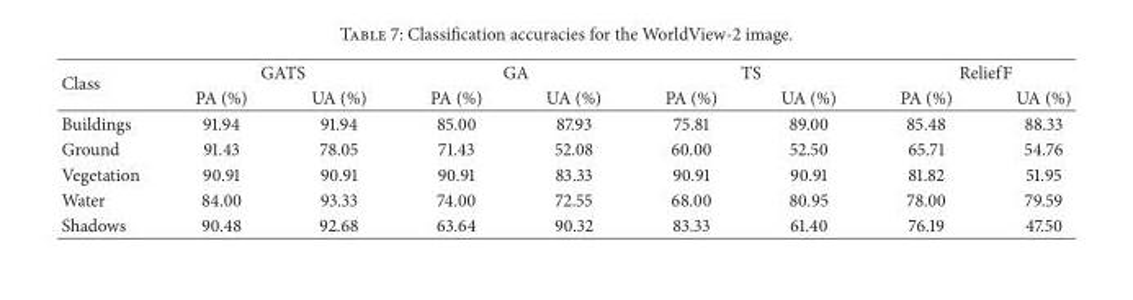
<table><thead><tr><td rowspan="2">Class</td><td colspan="2">GATS</td><td colspan="2">GA</td><td colspan="2">TS</td><td colspan="2">ReliefF</td></tr><tr><td>PA (%)</td><td>UA (%)</td><td>PA (%)</td><td>UA (%)</td><td>PA (%)</td><td>UA (%)</td><td>PA (%)</td><td>UA (%)</td></tr></thead><tbody><tr><td>Buildings</td><td>91.94</td><td>91.94</td><td>85.00</td><td>87.93</td><td>75.81</td><td>89.00</td><td>85.48</td><td>88.33</td></tr><tr><td>Ground</td><td>91.43</td><td>78.05</td><td>71.43</td><td>52.08</td><td>60.00</td><td>52.50</td><td>65.71</td><td>54.76</td></tr><tr><td>Vegetation</td><td>90.91</td><td>90.91</td><td>90.91</td><td>83.33</td><td>90.91</td><td>90.91</td><td>81.82</td><td>51.95</td></tr><tr><td>Water</td><td>84.00</td><td>93.33</td><td>74.00</td><td>72.55</td><td>68.00</td><td>80.95</td><td>78.00</td><td>79.59</td></tr><tr><td>Shadows</td><td>90.48</td><td>92.68</td><td>63.64</td><td>90.32</td><td>83.33</td><td>61.40</td><td>76.19</td><td>47.50</td></tr></tbody></table>